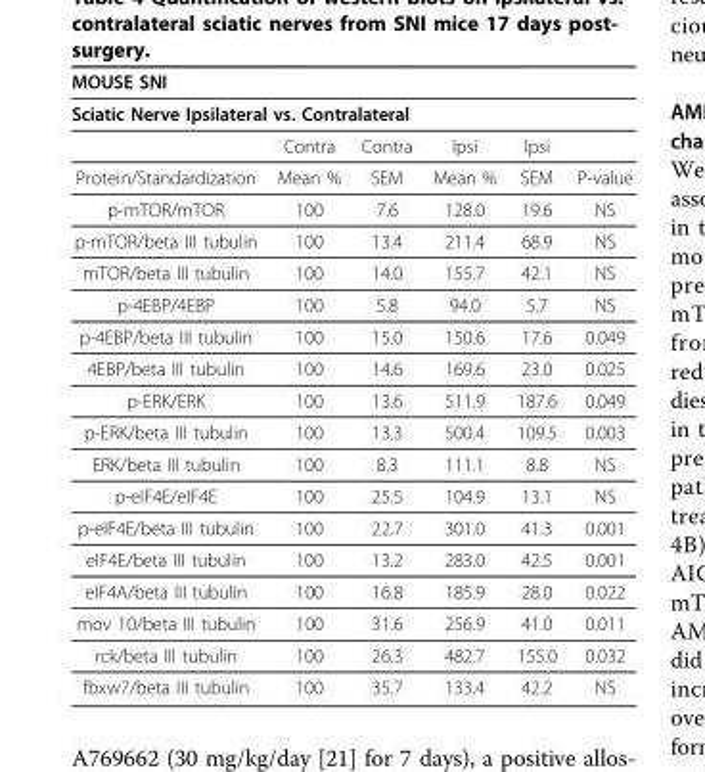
<table><thead><tr><td rowspan="2" colspan="6">MOUSE SNI Sciatic Nerve Ipsilateral vs. Contralateral</td></tr><tr></tr><tr><td></td><td>Contra</td><td>Contra</td><td>Ipsi</td><td>Ipsi</td><td></td></tr></thead><tbody><tr><td>Protein/Standardization</td><td>Mean %</td><td>SEM</td><td>Mean %</td><td>SEM</td><td>P-value</td></tr><tr><td>p-mTOR/mTOR</td><td>100</td><td>7.6</td><td>128.0</td><td>19.6</td><td>NS</td></tr><tr><td>p-mTOR/beta III tubulin</td><td>100</td><td>13.4</td><td>211.4</td><td>68.9</td><td>NS</td></tr><tr><td>mTOR/beta III tubulin</td><td>100</td><td>14.0</td><td>155.7</td><td>42.1</td><td>NS</td></tr><tr><td>p-4EBP/4EBP</td><td>100</td><td>5.8</td><td>94.0</td><td>5.7</td><td>NS</td></tr><tr><td>p-4EBP/beta III tubulin</td><td>100</td><td>15.0</td><td>150.6</td><td>17.6</td><td>0.049</td></tr><tr><td>4EBP/beta III tubulin</td><td>100</td><td>14.6</td><td>169.6</td><td>23.0</td><td>0.025</td></tr><tr><td>p-ERK/ERK</td><td>100</td><td>13.6</td><td>511.9</td><td>187.6</td><td>0.049</td></tr><tr><td>p-ERK/beta III tubulin</td><td>100</td><td>13.3</td><td>500.4</td><td>109.5</td><td>0.003</td></tr><tr><td>ERK/beta III tubulin</td><td>100</td><td>8.3</td><td>111.1</td><td>8.8</td><td>NS</td></tr><tr><td>p-eIF4E/eIF4E</td><td>100</td><td>25.5</td><td>104.9</td><td>13.1</td><td>NS</td></tr><tr><td>p-eIF4E/beta III tubulin</td><td>100</td><td>22.7</td><td>301.0</td><td>41.3</td><td>0.001</td></tr><tr><td>eIF4E/beta III tubulin</td><td>100</td><td>13.2</td><td>283.0</td><td>42.5</td><td>0.001</td></tr><tr><td>eIF4A/beta III tubulin</td><td>100</td><td>16.8</td><td>185.9</td><td>28.0</td><td>0.022</td></tr><tr><td>mov 10/beta III tubulin</td><td>100</td><td>31.6</td><td>256.9</td><td>41.0</td><td>0.011</td></tr><tr><td>rck/beta III tubulin</td><td>100</td><td>26.3</td><td>482.7</td><td>155.0</td><td>0.032</td></tr><tr><td>fbxw7/beta III tubulin</td><td>100</td><td>35.7</td><td>133.4</td><td>42.2</td><td>NS</td></tr></tbody></table>